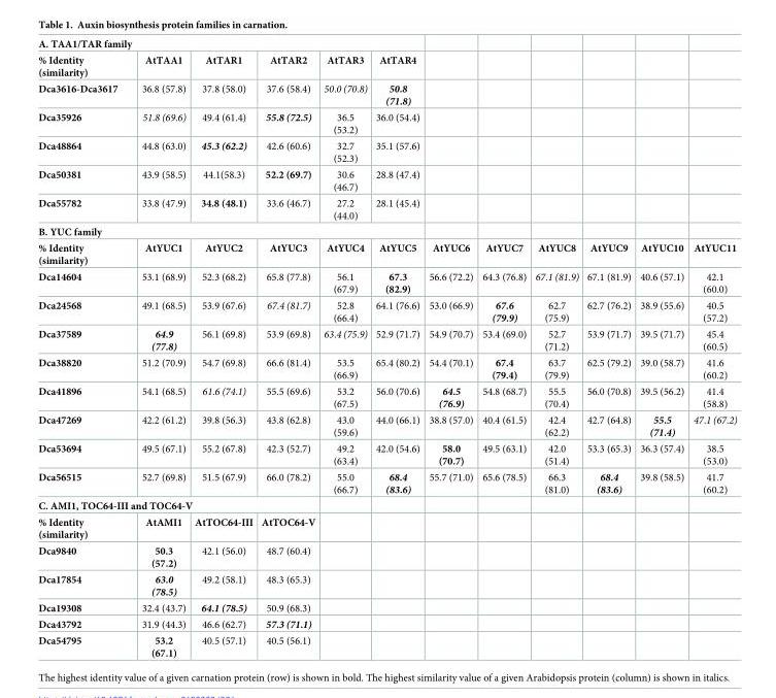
<table><tbody><tr><td colspan="12">A. TAA1/TAR family</td></tr><tr><td>% Identity (similarity)</td><td>AtTAA1</td><td>AtTAR1</td><td>AtTAR2</td><td>AtTAR3</td><td>AtTAR4</td><td></td><td></td><td></td><td></td><td></td><td></td></tr><tr><td>Dca3616-Dca3617</td><td>36.8 (57.8)</td><td>37.8 (58.0)</td><td>37.6 (58.4)</td><td>50.0 (70.8)</td><td>50.8 (71.8)</td><td></td><td></td><td></td><td></td><td></td><td></td></tr><tr><td>Dca35926</td><td>51.8 (69.6)</td><td>49.4 (61.4)</td><td>55.8 (72.5)</td><td>36.5 (53.2)</td><td>36.0 (54.4)</td><td></td><td></td><td></td><td></td><td></td><td></td></tr><tr><td>Dca48864</td><td>44.8 (63.0)</td><td>45.3 (62.2)</td><td>42.6 (60.6)</td><td>32.7 (52.3)</td><td>35.1 (57.6)</td><td></td><td></td><td></td><td></td><td></td><td></td></tr><tr><td>Dca50381</td><td>43.9 (58.5)</td><td>44.1(58.3)</td><td>52.2 (69.7)</td><td>30.6 (46.7)</td><td>28.8 (47.4)</td><td></td><td></td><td></td><td></td><td></td><td></td></tr><tr><td>Dca55782</td><td>33.8 (47.9)</td><td>34.8 (48.1)</td><td>33.6 (46.7)</td><td>27.2 (44.0)</td><td>28.1 (45.4)</td><td></td><td></td><td></td><td></td><td></td><td></td></tr><tr><td colspan="12">B. YUC family</td></tr><tr><td>% Identity (similarity)</td><td>AtYUC1</td><td>AtYUC2</td><td>AtYUC3</td><td>AtYUC4</td><td>AtYUC5</td><td>AtYUC6</td><td>AtYUC7</td><td>AtYUC8</td><td>AtYUC9</td><td>AtYUC10</td><td>AtYUC11</td></tr><tr><td>Dca14604</td><td>53.1 (68.9)</td><td>52.3 (68.2)</td><td>65.8 (77.8)</td><td>56.1 (67.9)</td><td>67.3 (82.9)</td><td>56.6 (72.2)</td><td>64.3 (76.8)</td><td>67.1 (81.9)</td><td>67.1 (81.9)</td><td>40.6 (57.1)</td><td>42.1 (60.0)</td></tr><tr><td>Dca24568</td><td>49.1 (68.5)</td><td>53.9 (67.6)</td><td>67.4 (81.7)</td><td>52.8 (66.4)</td><td>64.1 (76.6)</td><td>53.0 (66.9)</td><td>67.6 (79.9)</td><td>62.7 (75.9)</td><td>62.7 (76.2)</td><td>38.9 (55.6)</td><td>40.5 (57.2)</td></tr><tr><td>Dca37589</td><td>64.9 (77.8)</td><td>56.1 (69.8)</td><td>53.9 (69.8)</td><td>63.4 (75.9)</td><td>52.9 (71.7)</td><td>54.9 (70.7)</td><td>53.4 (69.0)</td><td>52.7 (71.2)</td><td>53.9 (71.7)</td><td>39.5 (71.7)</td><td>45.4 (60.5)</td></tr><tr><td>Dca38820</td><td>51.2 (70.9)</td><td>54.7 (69.8)</td><td>66.6 (81.4)</td><td>53.5 (66.9)</td><td>65.4 (80.2)</td><td>54.4 (70.1)</td><td>67.4 (79.4)</td><td>63.7 (79.9)</td><td>62.5 (79.2)</td><td>39.0 (58.7)</td><td>41.6 (60.2)</td></tr><tr><td>Dca41896</td><td>54.1 (68.5)</td><td>61.6 (74.1)</td><td>55.5 (69.6)</td><td>53.2 (67.5)</td><td>56.0 (70.6)</td><td>64.5 (76.9)</td><td>54.8 (68.7)</td><td>55.5 (70.4)</td><td>56.0 (70.8)</td><td>39.5 (56.2)</td><td>41.4 (58.8)</td></tr><tr><td>Dca47269</td><td>42.2 (61.2)</td><td>39.8 (56.3)</td><td>43.8 (62.8)</td><td>43.0 (59.6)</td><td>44.0 (66.1)</td><td>38.8 (57.0)</td><td>40.4 (61.5)</td><td>42.4 (62.2)</td><td>42.7 (64.8)</td><td>55.5 (71.4)</td><td>47.1 (67.2)</td></tr><tr><td>Dca53694</td><td>49.5 (67.1)</td><td>55.2 (67.8)</td><td>42.3 (52.7)</td><td>49.2 (63.4)</td><td>42.0 (54.6)</td><td>58.0 (70.7)</td><td>49.5 (63.1)</td><td>42.0 (51.4)</td><td>53.3 (65.3)</td><td>36.3 (57.4)</td><td>38.5 (53.0)</td></tr><tr><td>Dca56515</td><td>52.7 (69.8)</td><td>51.5 (67.9)</td><td>66.0 (78.2)</td><td>55.0 (66.7)</td><td>68.4 (83.6)</td><td>55.7 (71.0)</td><td>65.6 (78.5)</td><td>66.3 (81.0)</td><td>68.4 (83.6)</td><td>39.8 (58.5)</td><td>41.7 (60.2)</td></tr><tr><td colspan="12">C. AMI1, TOC64-III and TOC64-V</td></tr><tr><td>% Identity (similarity)</td><td>AtAMI1</td><td>AtTOC64-III</td><td>AtTOC64-V</td><td></td><td></td><td></td><td></td><td></td><td></td><td></td><td></td></tr><tr><td>Dca9840</td><td>50.3 (57.2)</td><td>42.1 (56.0)</td><td>48.7 (60.4)</td><td></td><td></td><td></td><td></td><td></td><td></td><td></td><td></td></tr><tr><td>Dca17854</td><td>63.0 (78.5)</td><td>49.2 (58.1)</td><td>48.3 (65.3)</td><td></td><td></td><td></td><td></td><td></td><td></td><td></td><td></td></tr><tr><td>Dca19308</td><td>32.4 (43.7)</td><td>64.1 (78.5)</td><td>50.9 (68.3)</td><td></td><td></td><td></td><td></td><td></td><td></td><td></td><td></td></tr><tr><td>Dca43792</td><td>31.9 (44.3)</td><td>46.6 (62.7)</td><td>57.3 (71.1)</td><td></td><td></td><td></td><td></td><td></td><td></td><td></td><td></td></tr><tr><td>Dca54795</td><td>53.2 (67.1)</td><td>40.5 (57.1)</td><td>40.5 (56.1)</td><td></td><td></td><td></td><td></td><td></td><td></td><td></td><td></td></tr></tbody></table>